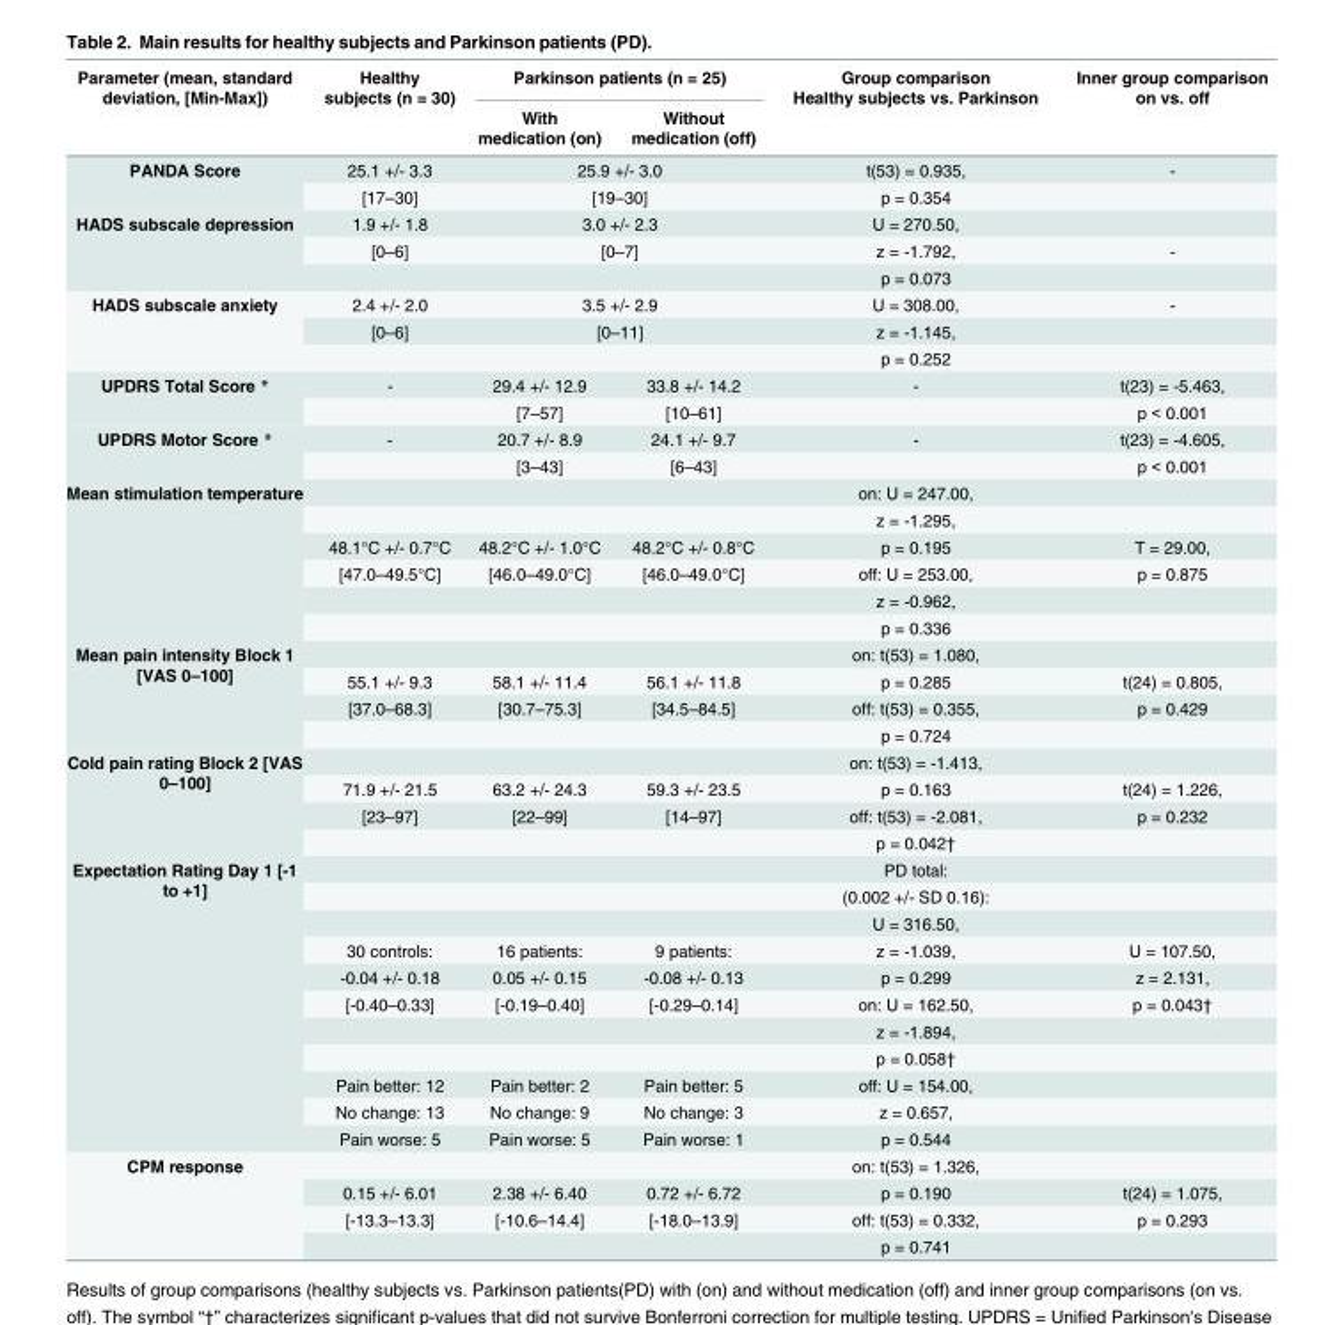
<table><thead><tr><td rowspan="2">Parameter (mean, standard deviation, [Min-Max])</td><td rowspan="2">Healthy subjects (n = 30)</td><td colspan="2">Parkinson patients (n = 25)</td><td rowspan="2">Group comparison Healthy subjects vs. Parkinson</td><td rowspan="2">Inner group comparison on vs. off</td></tr><tr><td>With medication (on)</td><td>Without medication (off)</td></tr></thead><tbody><tr><td rowspan="2">PANDA Score</td><td>25.1 +/- 3.3</td><td colspan="2">25.9 +/- 3.0</td><td>t(53) = 0.935,</td><td>-</td></tr><tr><td>[17–30]</td><td colspan="2">[19–30]</td><td>p = 0.354</td><td></td></tr><tr><td rowspan="3">HADS subscale depression</td><td>1.9 +/- 1.8</td><td colspan="2">3.0 +/- 2.3</td><td>U = 270.50,</td><td></td></tr><tr><td>[0–6]</td><td colspan="2">[0–7]</td><td>z = -1.792,</td><td>-</td></tr><tr><td></td><td colspan="2"></td><td>p = 0.073</td><td></td></tr><tr><td rowspan="3">HADS subscale anxiety</td><td>2.4 +/- 2.0</td><td colspan="2">3.5 +/- 2.9</td><td>U = 308.00,</td><td>-</td></tr><tr><td>[0–6]</td><td colspan="2">[0–11]</td><td>z = -1.145,</td><td></td></tr><tr><td></td><td colspan="2"></td><td>p = 0.252</td><td></td></tr><tr><td rowspan="2">UPDRS Total Score *</td><td>-</td><td>29.4 +/- 12.9</td><td>33.8 +/- 14.2</td><td>-</td><td>t(23) = -5.463,</td></tr><tr><td></td><td>[7–57]</td><td>[10–61]</td><td></td><td>p &lt; 0.001</td></tr><tr><td rowspan="2">UPDRS Motor Score *</td><td>-</td><td>20.7 +/- 8.9</td><td>24.1 +/- 9.7</td><td>-</td><td>t(23) = -4.605,</td></tr><tr><td></td><td>[3–43]</td><td>[6–43]</td><td></td><td>p &lt; 0.001</td></tr><tr><td rowspan="6">Mean stimulation temperature</td><td></td><td></td><td></td><td>on: U = 247.00,</td><td></td></tr><tr><td></td><td></td><td></td><td>z = -1.295,</td><td></td></tr><tr><td>48.1°C +/- 0.7°C</td><td>48.2°C +/- 1.0°C</td><td>48.2°C +/- 0.8°C</td><td>p = 0.195</td><td>T = 29.00,</td></tr><tr><td>[47.0–49.5°C]</td><td>[46.0–49.0°C]</td><td>[46.0–49.0°C]</td><td>off: U = 253.00,</td><td>p = 0.875</td></tr><tr><td></td><td></td><td></td><td>z = -0.962,</td><td></td></tr><tr><td></td><td></td><td></td><td>p = 0.336</td><td></td></tr><tr><td rowspan="4">Mean pain intensity Block 1 [VAS 0–100]</td><td></td><td></td><td></td><td>on: t(53) = 1.080,</td><td></td></tr><tr><td>55.1 +/- 9.3</td><td>58.1 +/- 11.4</td><td>56.1 +/- 11.8</td><td>p = 0.285</td><td>t(24) = 0.805,</td></tr><tr><td>[37.0–68.3]</td><td>[30.7–75.3]</td><td>[34.5–84.5]</td><td>off: t(53) = 0.355,</td><td>p = 0.429</td></tr><tr><td></td><td></td><td></td><td>p = 0.724</td><td></td></tr><tr><td rowspan="4">Cold pain rating Block 2 [VAS 0–100]</td><td></td><td></td><td></td><td>on: t(53) = -1.413,</td><td></td></tr><tr><td>71.9 +/- 21.5</td><td>63.2 +/- 24.3</td><td>59.3 +/- 23.5</td><td>p = 0.163</td><td>t(24) = 1.226,</td></tr><tr><td>[23–97]</td><td>[22–99]</td><td>[14–97]</td><td>off: t(53) = -2.081,</td><td>p = 0.232</td></tr><tr><td></td><td></td><td></td><td>p = 0.042†</td><td></td></tr><tr><td rowspan="11">Expectation Rating Day 1 [-1 to +1]</td><td></td><td></td><td></td><td>PD total:</td><td></td></tr><tr><td></td><td></td><td></td><td>(0.002 +/- SD 0.16):</td><td></td></tr><tr><td></td><td></td><td></td><td>U = 316.50,</td><td></td></tr><tr><td>30 controls:</td><td>16 patients:</td><td>9 patients:</td><td>z = -1.039,</td><td>U = 107.50,</td></tr><tr><td>-0.04 +/- 0.18</td><td>0.05 +/- 0.15</td><td>-0.08 +/- 0.13</td><td>p = 0.299</td><td>z = 2.131,</td></tr><tr><td>[-0.40–0.33]</td><td>[-0.19–0.40]</td><td>[-0.29–0.14]</td><td>on: U = 162.50,</td><td>p = 0.043†</td></tr><tr><td></td><td></td><td></td><td>z = -1.894,</td><td></td></tr><tr><td></td><td></td><td></td><td>p = 0.058†</td><td></td></tr><tr><td>Pain better: 12</td><td>Pain better: 2</td><td>Pain better: 5</td><td>off: U = 154.00,</td><td></td></tr><tr><td>No change: 13</td><td>No change: 9</td><td>No change: 3</td><td>z = 0.657,</td><td></td></tr><tr><td>Pain worse: 5</td><td>Pain worse: 5</td><td>Pain worse: 1</td><td>p = 0.544</td><td></td></tr><tr><td rowspan="4">CPM response</td><td></td><td></td><td></td><td>on: t(53) = 1.326,</td><td></td></tr><tr><td>0.15 +/- 6.01</td><td>2.38 +/- 6.40</td><td>0.72 +/- 6.72</td><td>p = 0.190</td><td>t(24) = 1.075,</td></tr><tr><td>[-13.3–13.3]</td><td>[-10.6–14.4]</td><td>[-18.0–13.9]</td><td>off: t(53) = 0.332,</td><td>p = 0.293</td></tr><tr><td></td><td></td><td></td><td>p = 0.741</td><td></td></tr></tbody></table>